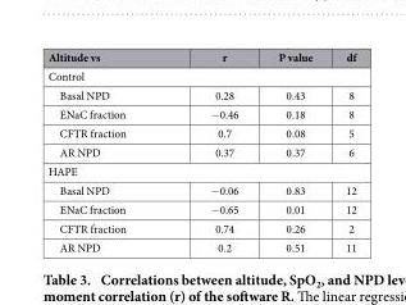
<table><thead><tr><td>Altitude vs</td><td>r</td><td>P value</td><td>df</td></tr></thead><tbody><tr><td colspan="4">Control</td></tr><tr><td>Basal NPD</td><td>0.28</td><td>0.43</td><td>8</td></tr><tr><td>ENaC fraction</td><td>− 0.46</td><td>0.18</td><td>8</td></tr><tr><td>CFTR fraction</td><td>0.7</td><td>0.08</td><td>5</td></tr><tr><td>AR NPD</td><td>0.37</td><td>0.37</td><td>6</td></tr><tr><td colspan="4">HAPE</td></tr><tr><td>Basal NPD</td><td>− 0.06</td><td>0.83</td><td>12</td></tr><tr><td>ENaC fraction</td><td>− 0.65</td><td>0.01</td><td>12</td></tr><tr><td>CFTR fraction</td><td>0.74</td><td>0.26</td><td>2</td></tr><tr><td>AR NPD</td><td>0.2</td><td>0.51</td><td>11</td></tr></tbody></table>